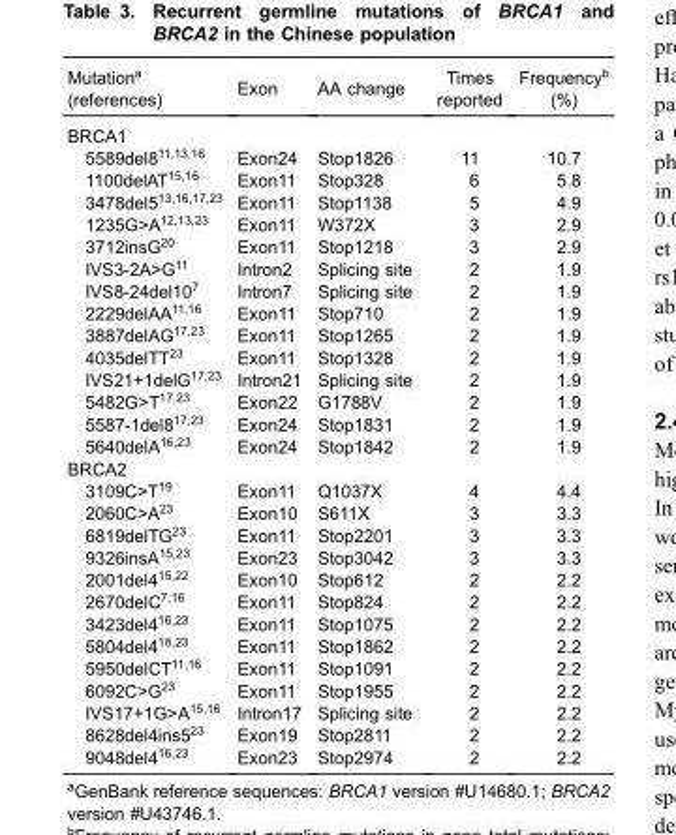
<table><thead><tr><td>Mutation<sup>a</sup> (references)</td><td>Exon</td><td>AA change</td><td>Times reported</td><td>Frequency<sup>b</sup> (%)</td></tr></thead><tbody><tr><td colspan="5">BRCA1</td></tr><tr><td>5589del8<sup>11,13,16</sup></td><td>Exon24</td><td>Stop1826</td><td>11</td><td>10.7</td></tr><tr><td>1100delAT<sup>15,16</sup></td><td>Exon11</td><td>Stop328</td><td>6</td><td>5.8</td></tr><tr><td>3478del5<sup>13,16,17,23</sup></td><td>Exon11</td><td>Stop1138</td><td>5</td><td>4.9</td></tr><tr><td>1235G&gt;A<sup>12,13,23</sup></td><td>Exon11</td><td>W372X</td><td>3</td><td>2.9</td></tr><tr><td>3712insG<sup>20</sup></td><td>Exon11</td><td>Stop1218</td><td>3</td><td>2.9</td></tr><tr><td>IVS3-2A&gt;G<sup>11</sup></td><td>Intron2</td><td>Splicing site</td><td>2</td><td>1.9</td></tr><tr><td>IVS8-24del10<sup>7</sup></td><td>Intron7</td><td>Splicing site</td><td>2</td><td>1.9</td></tr><tr><td>2229delAA<sup>11,16</sup></td><td>Exon11</td><td>Stop710</td><td>2</td><td>1.9</td></tr><tr><td>3887delAG<sup>17,23</sup></td><td>Exon11</td><td>Stop1265</td><td>2</td><td>1.9</td></tr><tr><td>4035delTT<sup>23</sup></td><td>Exon11</td><td>Stop1328</td><td>2</td><td>1.9</td></tr><tr><td>IVS21+1delG<sup>17,23</sup></td><td>Intron21</td><td>Splicing site</td><td>2</td><td>1.9</td></tr><tr><td>5482G&gt;T<sup>17,23</sup></td><td>Exon22</td><td>G1788V</td><td>2</td><td>1.9</td></tr><tr><td>5587-1del8<sup>17,23</sup></td><td>Exon24</td><td>Stop1831</td><td>2</td><td>1.9</td></tr><tr><td>5640delA<sup>16,23</sup></td><td>Exon24</td><td>Stop1842</td><td>2</td><td>1.9</td></tr><tr><td colspan="5">BRCA2</td></tr><tr><td>3109C&gt;T<sup>19</sup></td><td>Exon11</td><td>Q1037X</td><td>4</td><td>4.4</td></tr><tr><td>2060C&gt;A<sup>23</sup></td><td>Exon10</td><td>S611X</td><td>3</td><td>3.3</td></tr><tr><td>6819delTG<sup>23</sup></td><td>Exon11</td><td>Stop2201</td><td>3</td><td>3.3</td></tr><tr><td>9326insA<sup>15,23</sup></td><td>Exon23</td><td>Stop3042</td><td>3</td><td>3.3</td></tr><tr><td>2001del4<sup>15,22</sup></td><td>Exon10</td><td>Stop612</td><td>2</td><td>2.2</td></tr><tr><td>2670delC<sup>7,16</sup></td><td>Exon11</td><td>Stop824</td><td>2</td><td>2.2</td></tr><tr><td>3423del4<sup>16,23</sup></td><td>Exon11</td><td>Stop1075</td><td>2</td><td>2.2</td></tr><tr><td>5804del4<sup>18,23</sup></td><td>Exon11</td><td>Stop1862</td><td>2</td><td>2.2</td></tr><tr><td>5950delCT<sup>11,16</sup></td><td>Exon11</td><td>Stop1091</td><td>2</td><td>2.2</td></tr><tr><td>6092C&gt;G<sup>23</sup></td><td>Exon11</td><td>Stop1955</td><td>2</td><td>2.2</td></tr><tr><td>IVS17+1G&gt;A<sup>15,16</sup></td><td>Intron17</td><td>Splicing site</td><td>2</td><td>2.2</td></tr><tr><td>8628del4ins5<sup>23</sup></td><td>Exon19</td><td>Stop2811</td><td>2</td><td>2.2</td></tr><tr><td>9048del4<sup>16,23</sup></td><td>Exon23</td><td>Stop2974</td><td>2</td><td>2.2</td></tr></tbody></table>